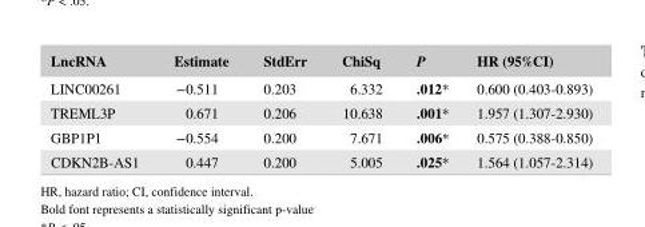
<table><thead><tr><td>LncRNA</td><td>Estimate</td><td>StdErr</td><td>ChiSq</td><td>P</td><td>HR (95%CI)</td></tr></thead><tbody><tr><td>LINC00261</td><td>−0.511</td><td>0.203</td><td>6.332</td><td>.012*</td><td>0.600 (0.403- 0.893)</td></tr><tr><td>TREML3P</td><td>0.671</td><td>0.206</td><td>10.638</td><td>.001*</td><td>1.957 (1.307- 2.930)</td></tr><tr><td>GBP1P1</td><td>−0.554</td><td>0.200</td><td>7.671</td><td>.006*</td><td>0.575 (0.388- 0.850)</td></tr><tr><td>CDKN2B- AS1</td><td>0.447</td><td>0.200</td><td>5.005</td><td>.025*</td><td>1.564 (1.057- 2.314)</td></tr></tbody></table>